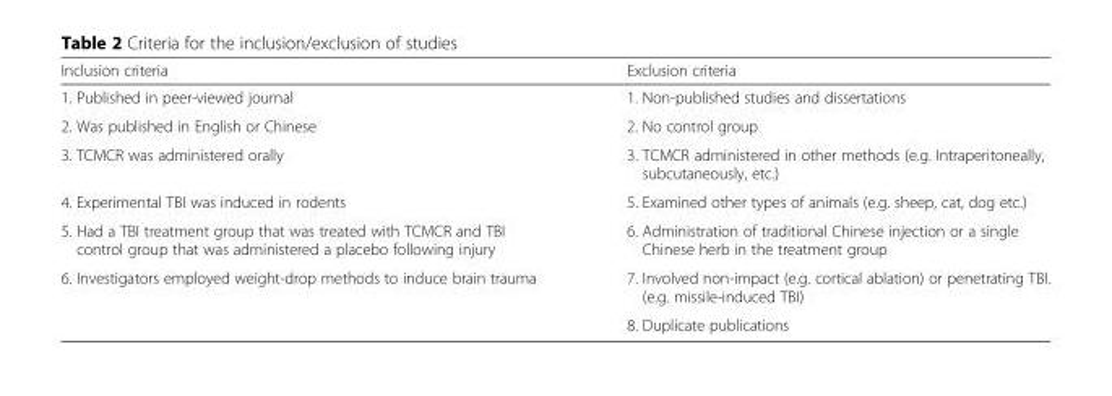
<table><thead><tr><td>Inclusion criteria</td><td>Exclusion criteria</td></tr></thead><tbody><tr><td>1. Published in peer-viewed journal</td><td>1. Non-published studies and dissertations</td></tr><tr><td>2. Was published in English or Chinese</td><td>2. No control group</td></tr><tr><td>3. TCMCR was administered orally</td><td>3. TCMCR administered in other methods (e.g. Intraperitoneally, subcutaneously, etc.)</td></tr><tr><td>4. Experimental TBI was induced in rodents</td><td>5. Examined other types of animals (e.g. sheep, cat, dog etc.)</td></tr><tr><td>5. Had a TBI treatment group that was treated with TCMCR and TBI control group that was administered a placebo following injury</td><td>6. Administration of traditional Chinese injection or a single Chinese herb in the treatment group</td></tr><tr><td rowspan="2">6. Investigators employed weight-drop methods to induce brain trauma</td><td>7. Involved non-impact (e.g. cortical ablation) or penetrating TBI. (e.g. missile-induced TBI)</td></tr><tr><td>8. Duplicate publications</td></tr></tbody></table>